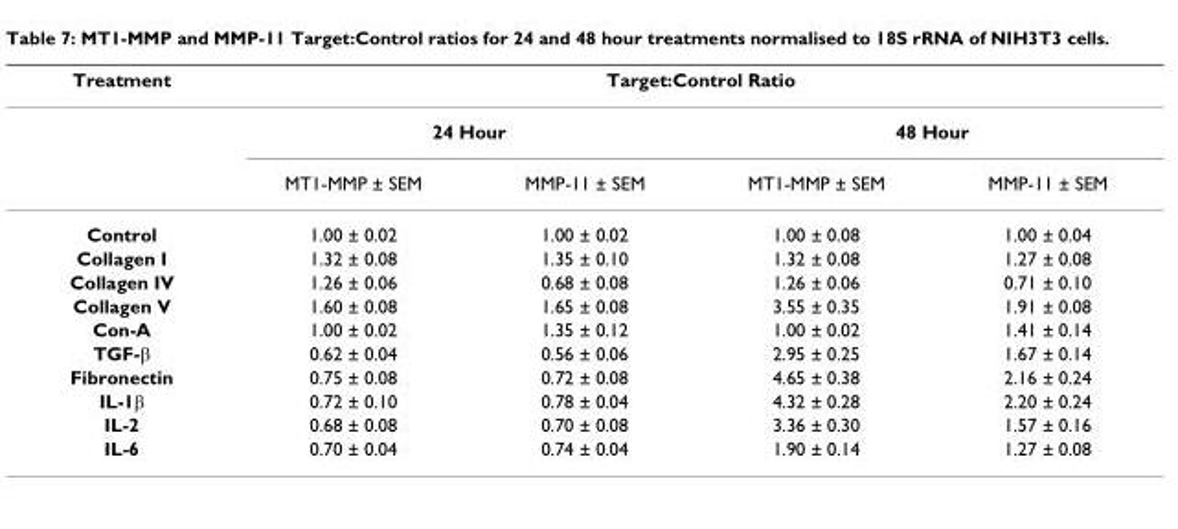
<table><thead><tr><td rowspan="3">Treatment</td><td colspan="4">Target:Control Ratio</td></tr><tr><td colspan="2">24 Hour</td><td colspan="2">48 Hour</td></tr><tr><td>MT1-MMP ± SEM</td><td>MMP-11 ± SEM</td><td>MT1-MMP ± SEM</td><td>MMP-11 ± SEM</td></tr></thead><tbody><tr><td>Control</td><td>1.00 ± 0.02</td><td>1.00 ± 0.02</td><td>1.00 ± 0.08</td><td>1.00 ± 0.04</td></tr><tr><td>Collagen I</td><td>1.32 ± 0.08</td><td>1.35 ± 0.10</td><td>1.32 ± 0.08</td><td>1.27 ± 0.08</td></tr><tr><td>Collagen IV</td><td>1.26 ± 0.06</td><td>0.68 ± 0.08</td><td>1.26 ± 0.06</td><td>0.71 ± 0.10</td></tr><tr><td>Collagen V</td><td>1.60 ± 0.08</td><td>1.65 ± 0.08</td><td>3.55 ± 0.35</td><td>1.91 ± 0.08</td></tr><tr><td>Con-A</td><td>1.00 ± 0.02</td><td>1.35 ± 0.12</td><td>1.00 ± 0.02</td><td>1.41 ± 0.14</td></tr><tr><td>TGF-β</td><td>0.62 ± 0.04</td><td>0.56 ± 0.06</td><td>2.95 ± 0.25</td><td>1.67 ± 0.14</td></tr><tr><td>Fibronectin</td><td>0.75 ± 0.08</td><td>0.72 ± 0.08</td><td>4.65 ± 0.38</td><td>2.16 ± 0.24</td></tr><tr><td>IL-1β</td><td>0.72 ± 0.10</td><td>0.78 ± 0.04</td><td>4.32 ± 0.28</td><td>2.20 ± 0.24</td></tr><tr><td>IL-2</td><td>0.68 ± 0.08</td><td>0.70 ± 0.08</td><td>3.36 ± 0.30</td><td>1.57 ± 0.16</td></tr><tr><td>IL-6</td><td>0.70 ± 0.04</td><td>0.74 ± 0.04</td><td>1.90 ± 0.14</td><td>1.27 ± 0.08</td></tr></tbody></table>